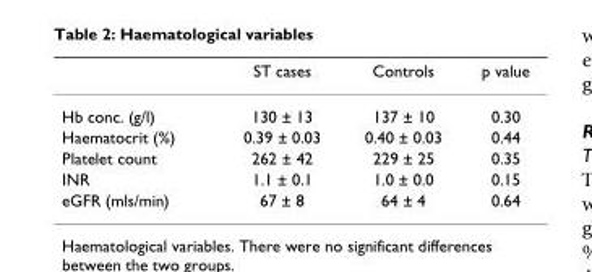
<table><thead><tr><td></td><td>ST cases</td><td>Controls</td><td>p value</td></tr></thead><tbody><tr><td>Hb conc. (g/l)</td><td>130 ± 13</td><td>137 ± 10</td><td>0.30</td></tr><tr><td>Haematocrit (%)</td><td>0.39 ± 0.03</td><td>0.40 ± 0.03</td><td>0.44</td></tr><tr><td>Platelet count</td><td>262 ± 42</td><td>229 ± 25</td><td>0.35</td></tr><tr><td>INR</td><td>1.1 ± 0.1</td><td>1.0 ± 0.0</td><td>0.15</td></tr><tr><td>eGFR (mls/min)</td><td>67 ± 8</td><td>64 ± 4</td><td>0.64</td></tr></tbody></table>